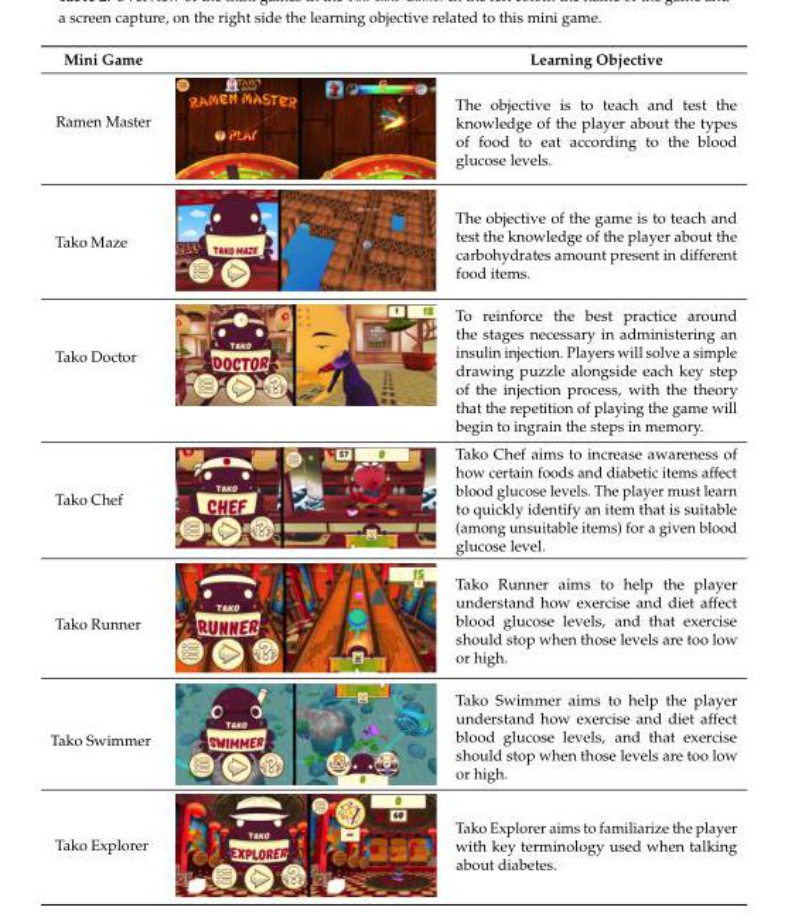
<table><thead><tr><td>Mini Game</td><td>Learning Objective</td></tr></thead><tbody><tr><td>Ramen Master</td><td>The objective is to teach and test the knowledge of the player about the types of food to eat according to the blood glucose levels.</td></tr><tr><td>Tako Maze</td><td>The objective of the game is to teach and test the knowledge of the player about the carbohydrates amount present in different food items.</td></tr><tr><td>Tako Doctor</td><td>To reinforce the best practice around the stages necessary in administering an insulin injection. Players will solve a simple drawing puzzle alongside each key step of the injection process, with the theory that the repetition of playing the game will begin to ingrain the steps in memory.</td></tr><tr><td>Tako Chef</td><td>Tako Chef aims to increase awareness of how certain foods and diabetic items affect blood glucose levels. The player must learn to quickly identify an item that is suitable (among unsuitable items) for a given blood glucose level.</td></tr><tr><td>Tako Runner</td><td>Tako Runner aims to help the player understand how exercise and diet affect blood glucose levels, and that exercise should stop when those levels are too low or high.</td></tr><tr><td>Tako Swimmer</td><td>Tako Swimmer aims to help the player understand how exercise and diet affect blood glucose levels, and that exercise should stop when those levels are too low or high.</td></tr><tr><td>Tako Explorer</td><td>Tako Explorer aims to familiarize the player with key terminology used when talking about diabetes.</td></tr></tbody></table>